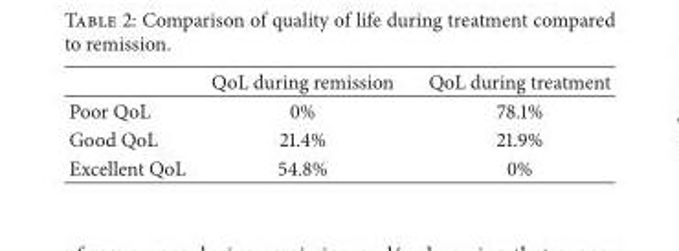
<table><thead><tr><td></td><td>QoL during remission</td><td>QoL during treatment</td></tr></thead><tbody><tr><td>Poor QoL</td><td>0%</td><td>78.1%</td></tr><tr><td>Good QoL</td><td>21.4%</td><td>21.9%</td></tr><tr><td>Excellent QoL</td><td>54.8%</td><td>0%</td></tr></tbody></table>